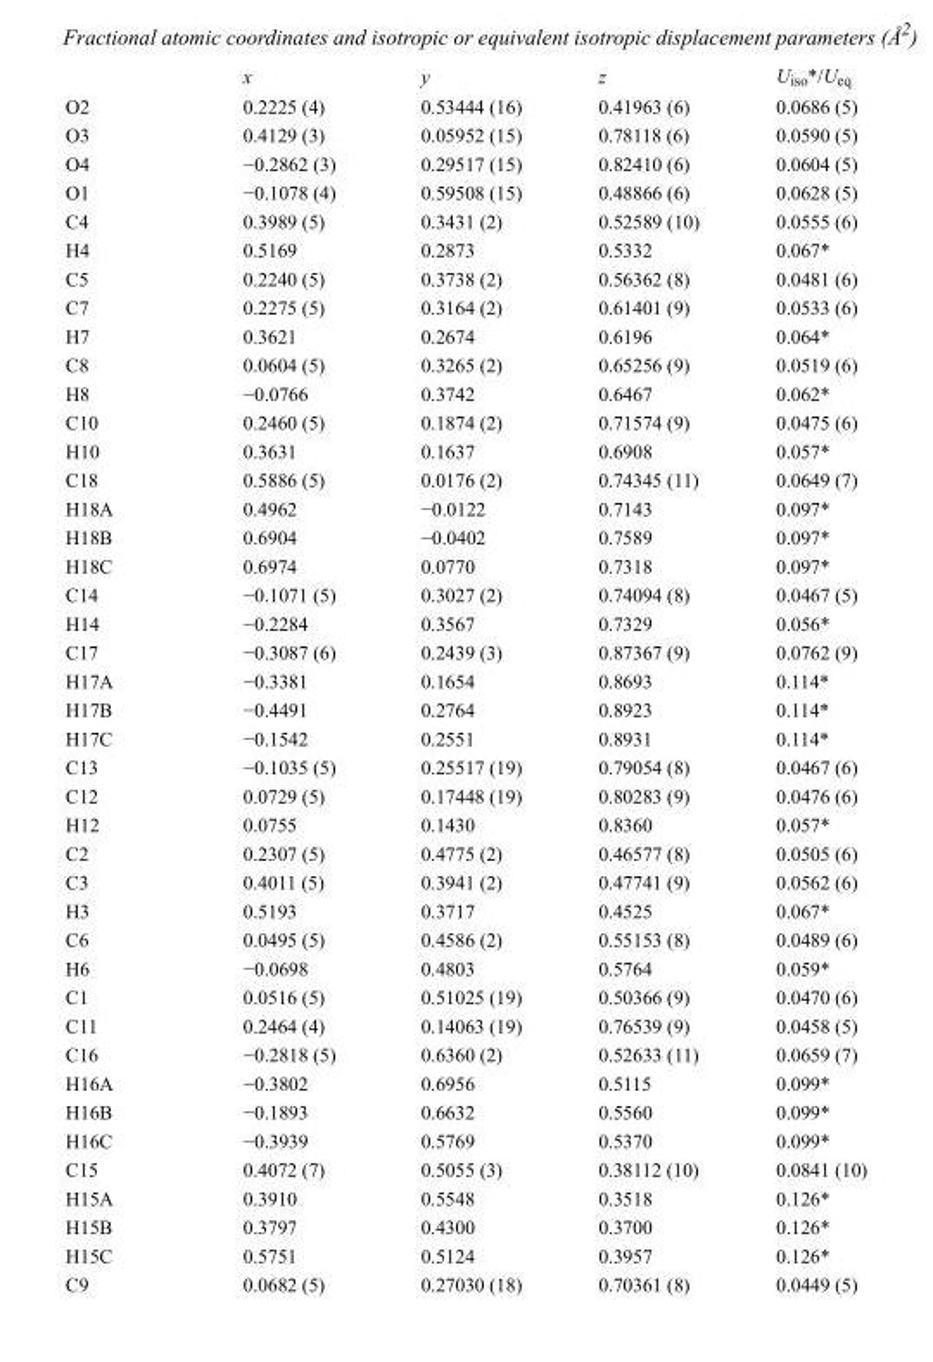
<table><thead><tr><td></td><td>x</td><td>y</td><td>z</td><td>U<sub>iso</sub>*/U<sub>eq</sub></td></tr></thead><tbody><tr><td>O2</td><td>0.2225 (4)</td><td>0.53444 (16)</td><td>0.41963 (6)</td><td>0.0686 (5)</td></tr><tr><td>O3</td><td>0.4129 (3)</td><td>0.05952 (15)</td><td>0.78118 (6)</td><td>0.0590 (5)</td></tr><tr><td>O4</td><td>−0.2862 (3)</td><td>0.29517 (15)</td><td>0.82410 (6)</td><td>0.0604 (5)</td></tr><tr><td>O1</td><td>−0.1078 (4)</td><td>0.59508 (15)</td><td>0.48866 (6)</td><td>0.0628 (5)</td></tr><tr><td>C4</td><td>0.3989 (5)</td><td>0.3431 (2)</td><td>0.52589 (10)</td><td>0.0555 (6)</td></tr><tr><td>H4</td><td>0.5169</td><td>0.2873</td><td>0.5332</td><td>0.067*</td></tr><tr><td>C5</td><td>0.2240 (5)</td><td>0.3738 (2)</td><td>0.56362 (8)</td><td>0.0481 (6)</td></tr><tr><td>C7</td><td>0.2275 (5)</td><td>0.3164 (2)</td><td>0.61401 (9)</td><td>0.0533 (6)</td></tr><tr><td>H7</td><td>0.3621</td><td>0.2674</td><td>0.6196</td><td>0.064*</td></tr><tr><td>C8</td><td>0.0604 (5)</td><td>0.3265 (2)</td><td>0.65256 (9)</td><td>0.0519 (6)</td></tr><tr><td>H8</td><td>−0.0766</td><td>0.3742</td><td>0.6467</td><td>0.062*</td></tr><tr><td>C10</td><td>0.2460 (5)</td><td>0.1874 (2)</td><td>0.71574 (9)</td><td>0.0475 (6)</td></tr><tr><td>H10</td><td>0.3631</td><td>0.1637</td><td>0.6908</td><td>0.057*</td></tr><tr><td>C18</td><td>0.5886 (5)</td><td>0.0176 (2)</td><td>0.74345 (11)</td><td>0.0649 (7)</td></tr><tr><td>H18A</td><td>0.4962</td><td>−0.0122</td><td>0.7143</td><td>0.097*</td></tr><tr><td>H18B</td><td>0.6904</td><td>−0.0402</td><td>0.7589</td><td>0.097*</td></tr><tr><td>H18C</td><td>0.6974</td><td>0.0770</td><td>0.7318</td><td>0.097*</td></tr><tr><td>C14</td><td>−0.1071 (5)</td><td>0.3027 (2)</td><td>0.74094 (8)</td><td>0.0467 (5)</td></tr><tr><td>H14</td><td>−0.2284</td><td>0.3567</td><td>0.7329</td><td>0.056*</td></tr><tr><td>C17</td><td>−0.3087 (6)</td><td>0.2439 (3)</td><td>0.87367 (9)</td><td>0.0762 (9)</td></tr><tr><td>H17A</td><td>−0.3381</td><td>0.1654</td><td>0.8693</td><td>0.114*</td></tr><tr><td>H17B</td><td>−0.4491</td><td>0.2764</td><td>0.8923</td><td>0.114*</td></tr><tr><td>H17C</td><td>−0.1542</td><td>0.2551</td><td>0.8931</td><td>0.114*</td></tr><tr><td>C13</td><td>−0.1035 (5)</td><td>0.25517 (19)</td><td>0.79054 (8)</td><td>0.0467 (6)</td></tr><tr><td>C12</td><td>0.0729 (5)</td><td>0.17448 (19)</td><td>0.80283 (9)</td><td>0.0476 (6)</td></tr><tr><td>H12</td><td>0.0755</td><td>0.1430</td><td>0.8360</td><td>0.057*</td></tr><tr><td>C2</td><td>0.2307 (5)</td><td>0.4775 (2)</td><td>0.46577 (8)</td><td>0.0505 (6)</td></tr><tr><td>C3</td><td>0.4011 (5)</td><td>0.3941 (2)</td><td>0.47741 (9)</td><td>0.0562 (6)</td></tr><tr><td>H3</td><td>0.5193</td><td>0.3717</td><td>0.4525</td><td>0.067*</td></tr><tr><td>C6</td><td>0.0495 (5)</td><td>0.4586 (2)</td><td>0.55153 (8)</td><td>0.0489 (6)</td></tr><tr><td>H6</td><td>−0.0698</td><td>0.4803</td><td>0.5764</td><td>0.059*</td></tr><tr><td>C1</td><td>0.0516 (5)</td><td>0.51025 (19)</td><td>0.50366 (9)</td><td>0.0470 (6)</td></tr><tr><td>C11</td><td>0.2464 (4)</td><td>0.14063 (19)</td><td>0.76539 (9)</td><td>0.0458 (5)</td></tr><tr><td>C16</td><td>−0.2818 (5)</td><td>0.6360 (2)</td><td>0.52633 (11)</td><td>0.0659 (7)</td></tr><tr><td>H16A</td><td>−0.3802</td><td>0.6956</td><td>0.5115</td><td>0.099*</td></tr><tr><td>H16B</td><td>−0.1893</td><td>0.6632</td><td>0.5560</td><td>0.099*</td></tr><tr><td>H16C</td><td>−0.3939</td><td>0.5769</td><td>0.5370</td><td>0.099*</td></tr><tr><td>C15</td><td>0.4072 (7)</td><td>0.5055 (3)</td><td>0.38112 (10)</td><td>0.0841 (10)</td></tr><tr><td>H15A</td><td>0.3910</td><td>0.5548</td><td>0.3518</td><td>0.126*</td></tr><tr><td>H15B</td><td>0.3797</td><td>0.4300</td><td>0.3700</td><td>0.126*</td></tr><tr><td>H15C</td><td>0.5751</td><td>0.5124</td><td>0.3957</td><td>0.126*</td></tr><tr><td>C9</td><td>0.0682 (5)</td><td>0.27030 (18)</td><td>0.70361 (8)</td><td>0.0449 (5)</td></tr></tbody></table>